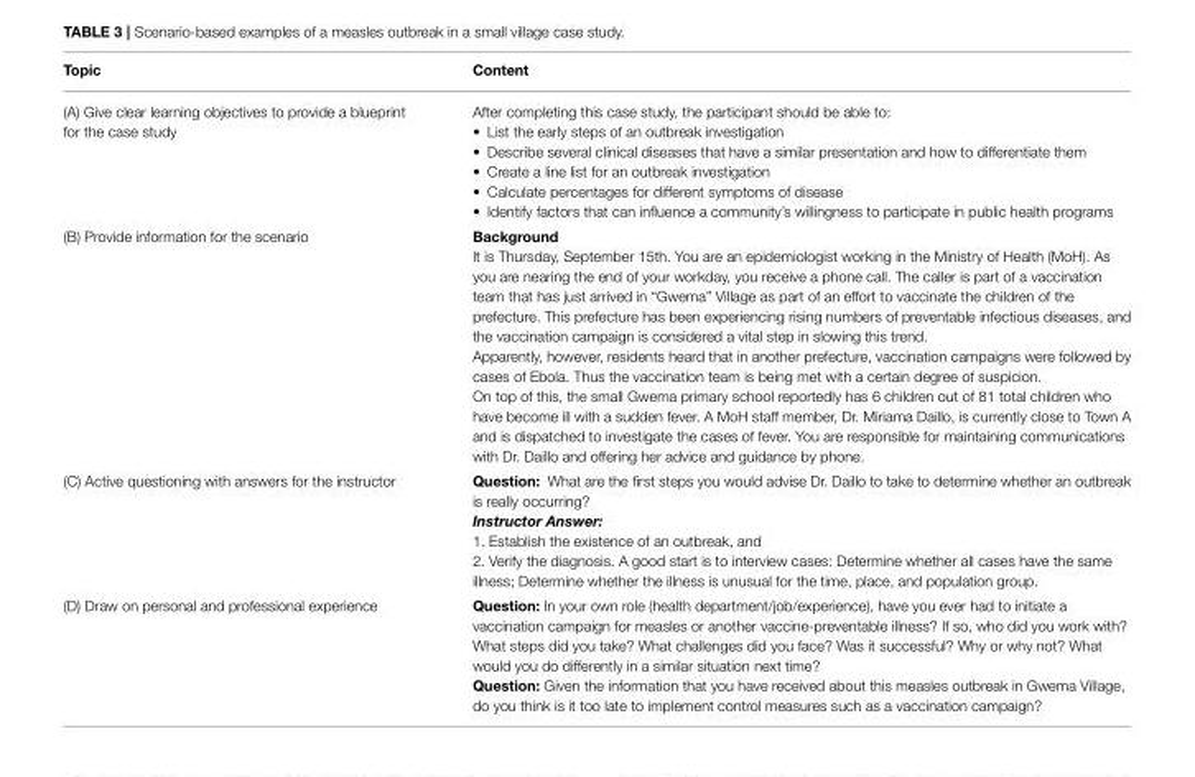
<table><thead><tr><td>Topic</td><td>Content</td></tr></thead><tbody><tr><td>(A) Give clear learning objectives to provide a blueprint for the case study</td><td>After completing this case study, the participant should be able to: • List the early steps of an outbreak investigation • Describe several clinical diseases that have a similar presentation and how to differentiate them • Create a line list for an outbreak investigation • Calculate percentages for different symptoms of disease • Identify factors that can influence a community’s willingness to participate in public health programs</td></tr><tr><td>(B) Provide information for the scenario</td><td>Background It is Thursday, September 15th. You are an epidemiologist working in the Ministry of Health (MoH). As you are nearing the end of your workday, you receive a phone call. The caller is part of a vaccination team that has just arrived in “Gwema” Village as part of an effort to vaccinate the children of the prefecture. This prefecture has been experiencing rising numbers of preventable infectious diseases, and the vaccination campaign is considered a vital step in slowing this trend. Apparently, however, residents heard that in another prefecture, vaccination campaigns were followed by cases of Ebola. Thus the vaccination team is being met with a certain degree of suspicion. On top of this, the small Gwema primary school reportedly has 6 children out of 81 total children who have become ill with a sudden fever. A MoH staff member, Dr. Miriama Daillo, is currently close to Town A and is dispatched to investigate the cases of fever. You are responsible for maintaining communications with Dr. Daillo and offering her advice and guidance by phone.</td></tr><tr><td>(C) Active questioning with answers for the instructor</td><td>Question: What are the first steps you would advise Dr. Daillo to take to determine whether an outbreak is really occurring? Instructor Answer: 1. Establish the existence of an outbreak, and 2. Verify the diagnosis. A good start is to interview cases: Determine whether all cases have the same illness; Determine whether the illness is unusual for the time, place, and population group.</td></tr><tr><td>(D) Draw on personal and professional experience</td><td>Question: In your own role (health department/job/experience), have you ever had to initiate a vaccination campaign for measles or another vaccine-preventable illness? If so, who did you work with? What steps did you take? What challenges did you face? Was it successful? Why or why not? What would you do differently in a similar situation next time? Question: Given the information that you have received about this measles outbreak in Gwema Village, do you think is it too late to implement control measures such as a vaccination campaign?</td></tr></tbody></table>